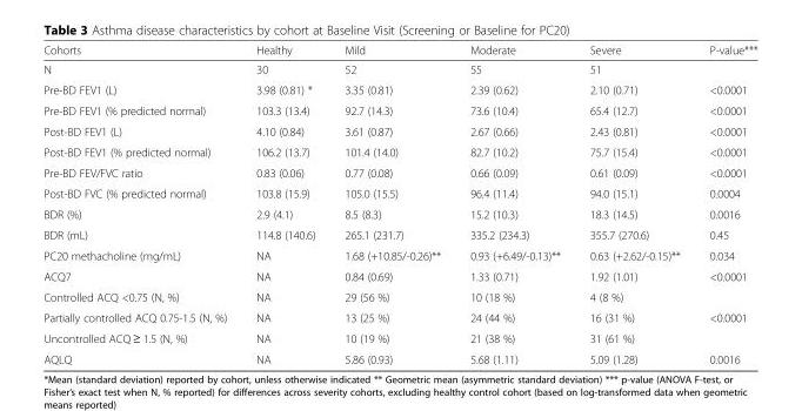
<table><thead><tr><td>Cohorts</td><td>Healthy</td><td>Mild</td><td>Moderate</td><td>Severe</td><td>P-value***</td></tr></thead><tbody><tr><td>N</td><td>30</td><td>52</td><td>55</td><td>51</td><td></td></tr><tr><td>Pre-BD FEV1 (L)</td><td>3.98 (0.81) *</td><td>3.35 (0.81)</td><td>2.39 (0.62)</td><td>2.10 (0.71)</td><td>&lt;0.0001</td></tr><tr><td>Pre-BD FEV1 (% predicted normal)</td><td>103.3 (13.4)</td><td>92.7 (14.3)</td><td>73.6 (10.4)</td><td>65.4 (12.7)</td><td>&lt;0.0001</td></tr><tr><td>Post-BD FEV1 (L)</td><td>4.10 (0.84)</td><td>3.61 (0.87)</td><td>2.67 (0.66)</td><td>2.43 (0.81)</td><td>&lt;0.0001</td></tr><tr><td>Post-BD FEV1 (% predicted normal)</td><td>106.2 (13.7)</td><td>101.4 (14.0)</td><td>82.7 (10.2)</td><td>75.7 (15.4)</td><td>&lt;0.0001</td></tr><tr><td>Pre-BD FEV/FVC ratio</td><td>0.83 (0.06)</td><td>0.77 (0.08)</td><td>0.66 (0.09)</td><td>0.61 (0.09)</td><td>&lt;0.0001</td></tr><tr><td>Post-BD FVC (% predicted normal)</td><td>103.8 (15.9)</td><td>105.0 (15.5)</td><td>96.4 (11.4)</td><td>94.0 (15.1)</td><td>0.0004</td></tr><tr><td>BDR (%)</td><td>2.9 (4.1)</td><td>8.5 (8.3)</td><td>15.2 (10.3)</td><td>18.3 (14.5)</td><td>0.0016</td></tr><tr><td>BDR (mL)</td><td>114.8 (140.6)</td><td>265.1 (231.7)</td><td>335.2 (234.3)</td><td>355.7 (270.6)</td><td>0.45</td></tr><tr><td>PC20 methacholine (mg/mL)</td><td>NA</td><td>1.68 (+10.85/-0.26)**</td><td>0.93 (+6.49/-0.13)**</td><td>0.63 (+2.62/-0.15)**</td><td>0.034</td></tr><tr><td>ACQ7</td><td>NA</td><td>0.84 (0.69)</td><td>1.33 (0.71)</td><td>1.92 (1.01)</td><td>&lt;0.0001</td></tr><tr><td>Controlled ACQ &lt;0.75 (N, %)</td><td>NA</td><td>29 (56 %)</td><td>10 (18 %)</td><td>4 (8 %)</td><td></td></tr><tr><td>Partially controlled ACQ 0.75-1.5 (N, %)</td><td>NA</td><td>13 (25 %)</td><td>24 (44 %)</td><td>16 (31 %)</td><td>&lt;0.0001</td></tr><tr><td>Uncontrolled ACQ ≥ 1.5 (N, %)</td><td>NA</td><td>10 (19 %)</td><td>21 (38 %)</td><td>31 (61 %)</td><td></td></tr><tr><td>AQLQ</td><td>NA</td><td>5.86 (0.93)</td><td>5.68 (1.11)</td><td>5.09 (1.28)</td><td>0.0016</td></tr></tbody></table>